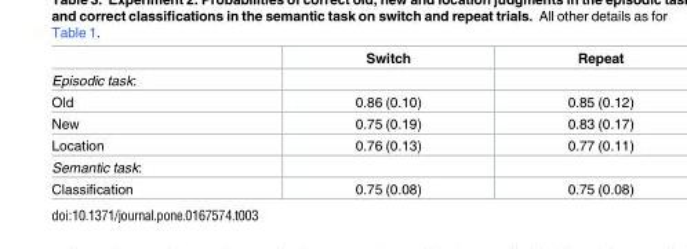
<table><thead><tr><td></td><td>Switch</td><td>Repeat</td></tr></thead><tbody><tr><td colspan="3">Episodic task:</td></tr><tr><td>Old</td><td>0.86 (0.10)</td><td>0.85 (0.12)</td></tr><tr><td>New</td><td>0.75 (0.19)</td><td>0.83 (0.17)</td></tr><tr><td>Location</td><td>0.76 (0.13)</td><td>0.77 (0.11)</td></tr><tr><td colspan="3">Semantic task:</td></tr><tr><td>Classification</td><td>0.75 (0.08)</td><td>0.75 (0.08)</td></tr></tbody></table>